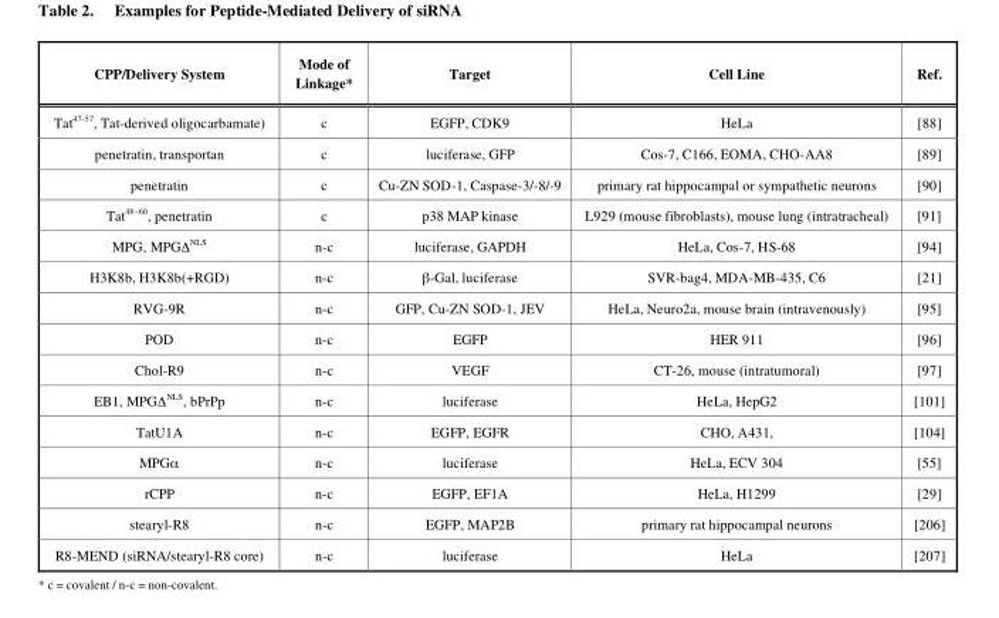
<table><thead><tr><td>CPP/Delivery System</td><td>Mode of Linkage*</td><td>Target</td><td>Cell Line</td><td>Ref.</td></tr></thead><tbody><tr><td>Tat<sup>47-57</sup>, Tat-derived oligocarbamate)</td><td>c</td><td>EGFP, CDK9</td><td>HeLa</td><td>[88]</td></tr><tr><td>penetratin, transportan</td><td>c</td><td>luciferase, GFP</td><td>Cos-7, C166, EOMA, CHO-AA8</td><td>[89]</td></tr><tr><td>penetratin</td><td>c</td><td>Cu-ZN SOD-1, Caspase-3/-8/-9</td><td>primary rat hippocampal or sympathetic neurons</td><td>[90]</td></tr><tr><td>Tat<sup>48–60</sup>, penetratin</td><td>c</td><td>p38 MAP kinase</td><td>L929 (mouse fibroblasts), mouse lung (intratracheal)</td><td>[91]</td></tr><tr><td>MPG, MPGΔ<sup>NLS</sup></td><td>n-c</td><td>luciferase, GAPDH</td><td>HeLa, Cos-7, HS-68</td><td>[94]</td></tr><tr><td>H3K8b, H3K8b(+RGD)</td><td>n-c</td><td>β-Gal, luciferase</td><td>SVR-bag4, MDA-MB-435, C6</td><td>[21]</td></tr><tr><td>RVG-9R</td><td>n-c</td><td>GFP, Cu-ZN SOD-1, JEV</td><td>HeLa, Neuro2a, mouse brain (intravenously)</td><td>[95]</td></tr><tr><td>POD</td><td>n-c</td><td>EGFP</td><td>HER 911</td><td>[96]</td></tr><tr><td>Chol-R9</td><td>n-c</td><td>VEGF</td><td>CT-26, mouse (intratumoral)</td><td>[97]</td></tr><tr><td>EB1, MPGΔ<sup>NLS</sup>, bPrPp</td><td>n-c</td><td>luciferase</td><td>HeLa, HepG2</td><td>[101]</td></tr><tr><td>TatU1A</td><td>n-c</td><td>EGFP, EGFR</td><td>CHO, A431,</td><td>[104]</td></tr><tr><td>MPGα</td><td>n-c</td><td>luciferase</td><td>HeLa, ECV 304</td><td>[55]</td></tr><tr><td>rCPP</td><td>n-c</td><td>EGFP, EF1A</td><td>HeLa, H1299</td><td>[29]</td></tr><tr><td>stearyl-R8</td><td>n-c</td><td>EGFP, MAP2B</td><td>primary rat hippocampal neurons</td><td>[206]</td></tr><tr><td>R8-MEND (siRNA/stearyl-R8 core)</td><td>n-c</td><td>luciferase</td><td>HeLa</td><td>[207]</td></tr></tbody></table>